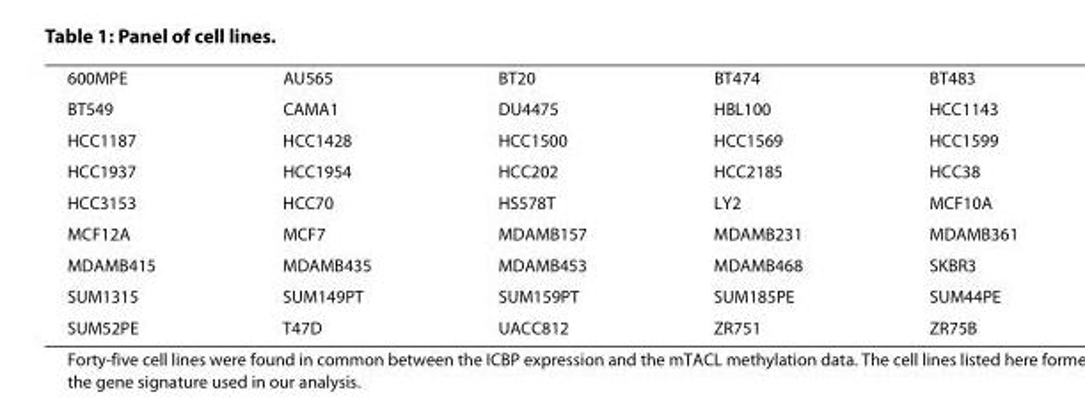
<table><tbody><tr><td>600MPE</td><td>AU565</td><td>BT20</td><td>BT474</td><td>BT483</td></tr><tr><td>BT549</td><td>CAMA1</td><td>DU4475</td><td>HBL100</td><td>HCC1143</td></tr><tr><td>HCC1187</td><td>HCC1428</td><td>HCC1500</td><td>HCC1569</td><td>HCC1599</td></tr><tr><td>HCC1937</td><td>HCC1954</td><td>HCC202</td><td>HCC2185</td><td>HCC38</td></tr><tr><td>HCC3153</td><td>HCC70</td><td>HS578T</td><td>LY2</td><td>MCF10A</td></tr><tr><td>MCF12A</td><td>MCF7</td><td>MDAMB157</td><td>MDAMB231</td><td>MDAMB361</td></tr><tr><td>MDAMB415</td><td>MDAMB435</td><td>MDAMB453</td><td>MDAMB468</td><td>SKBR3</td></tr><tr><td>SUM1315</td><td>SUM149PT</td><td>SUM159PT</td><td>SUM185PE</td><td>SUM44PE</td></tr><tr><td>SUM52PE</td><td>T47D</td><td>UACC812</td><td>ZR751</td><td>ZR75B</td></tr></tbody></table>